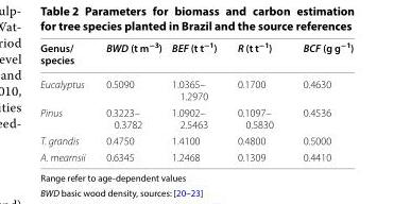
<table><thead><tr><td>Genus/ species</td><td>BWD (t m<sup>−3</sup>)</td><td>BEF (t t<sup>−1</sup>)</td><td>R (t t<sup>−1</sup>)</td><td>BCF (g g<sup>−1</sup>)</td></tr></thead><tbody><tr><td>Eucalyptus</td><td>0.5090</td><td>1.0365– 1.2970</td><td>0.1700</td><td>0.4630</td></tr><tr><td>Pinus</td><td>0.3223– 0.3782</td><td>1.0902– 2.5463</td><td>0.1097– 0.5830</td><td>0.4536</td></tr><tr><td>T. grandis</td><td>0.4750</td><td>1.4100</td><td>0.4800</td><td>0.5000</td></tr><tr><td>A. mearnsii</td><td>0.6345</td><td>1.2468</td><td>0.1309</td><td>0.4410</td></tr></tbody></table>